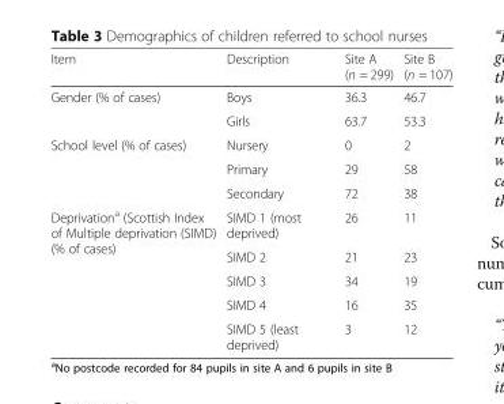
<table><thead><tr><td>Item</td><td>Description</td><td>Site A (n = 299)</td><td>Site B (n = 107)</td></tr></thead><tbody><tr><td rowspan="2">Gender (% of cases)</td><td>Boys</td><td>36.3</td><td>46.7</td></tr><tr><td>Girls</td><td>63.7</td><td>53.3</td></tr><tr><td rowspan="3">School level (% of cases)</td><td>Nursery</td><td>0</td><td>2</td></tr><tr><td>Primary</td><td>29</td><td>58</td></tr><tr><td>Secondary</td><td>72</td><td>38</td></tr><tr><td rowspan="5">Deprivation<sup>a</sup> (Scottish Index of Multiple deprivation (SIMD) (% of cases)</td><td>SIMD 1 (most deprived)</td><td>26</td><td>11</td></tr><tr><td>SIMD 2</td><td>21</td><td>23</td></tr><tr><td>SIMD 3</td><td>34</td><td>19</td></tr><tr><td>SIMD 4</td><td>16</td><td>35</td></tr><tr><td>SIMD 5 (least deprived)</td><td>3</td><td>12</td></tr></tbody></table>